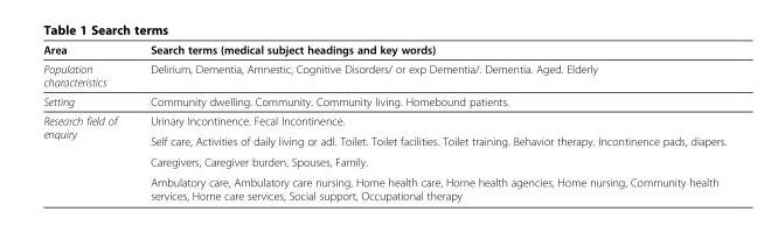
<table><thead><tr><td>Area</td><td>Search terms (medical subject headings and key words)</td></tr></thead><tbody><tr><td>Population characteristics</td><td>Delirium, Dementia, Amnestic, Cognitive Disorders/ or exp Dementia/. Dementia. Aged. Elderly</td></tr><tr><td>Setting</td><td>Community dwelling. Community. Community living. Homebound patients.</td></tr><tr><td rowspan="4">Research field of enquiry</td><td>Urinary Incontinence. Fecal Incontinence.</td></tr><tr><td>Self care, Activities of daily living or adl. Toilet. Toilet facilities. Toilet training. Behavior therapy. Incontinence pads, diapers.</td></tr><tr><td>Caregivers, Caregiver burden, Spouses, Family.</td></tr><tr><td>Ambulatory care, Ambulatory care nursing, Home health care, Home health agencies, Home nursing, Community health services, Home care services, Social support, Occupational therapy</td></tr></tbody></table>